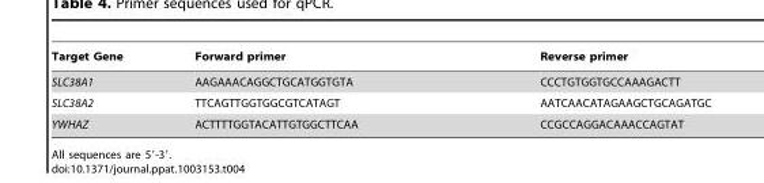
<table><thead><tr><td>Target Gene</td><td>Forward primer</td><td>Reverse primer</td></tr></thead><tbody><tr><td>SLC38A1</td><td>AAGAAACAGGCTGCATGGTGTA</td><td>CCCTGTGGTGCCAAAGACTT</td></tr><tr><td>SLC38A2</td><td>TTCAGTTGGTGGCGTCATAGT</td><td>AATCAACATAGAAGCTGCAGATGC</td></tr><tr><td>YWHAZ</td><td>ACTTTTGGTACATTGTGGCTTCAA</td><td>CCGCCAGGACAAACCAGTAT</td></tr></tbody></table>